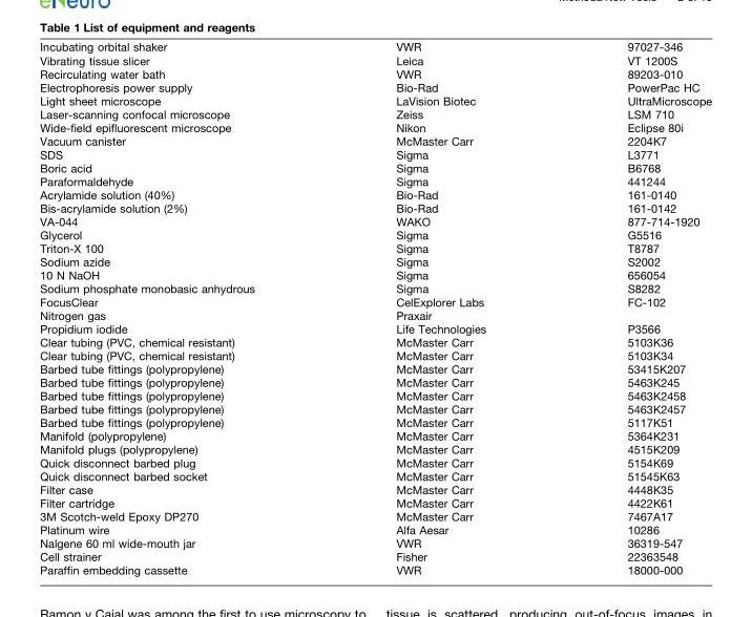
<table><tbody><tr><td>Incubating orbital shaker</td><td>VWR</td><td>97027-346</td></tr><tr><td>Vibrating tissue slicer</td><td>Leica</td><td>VT 1200S</td></tr><tr><td>Recirculating water bath</td><td>VWR</td><td>89203-010</td></tr><tr><td>Electrophoresis power supply</td><td>Bio-Rad</td><td>PowerPac HC</td></tr><tr><td>Light sheet microscope</td><td>LaVision Biotec</td><td>UltraMicroscope</td></tr><tr><td>Laser-scanning confocal microscope</td><td>Zeiss</td><td>LSM 710</td></tr><tr><td>Wide-field epifluorescent microscope</td><td>Nikon</td><td>Eclipse 80i</td></tr><tr><td>Vacuum canister</td><td>McMaster Carr</td><td>2204K7</td></tr><tr><td>SDS</td><td>Sigma</td><td>L3771</td></tr><tr><td>Boric acid</td><td>Sigma</td><td>B6768</td></tr><tr><td>Paraformaldehyde</td><td>Sigma</td><td>441244</td></tr><tr><td>Acrylamide solution (40%)</td><td>Bio-Rad</td><td>161-0140</td></tr><tr><td>Bis-acrylamide solution (2%)</td><td>Bio-Rad</td><td>161-0142</td></tr><tr><td>VA-044</td><td>WAKO</td><td>877-714-1920</td></tr><tr><td>Glycerol</td><td>Sigma</td><td>G5516</td></tr><tr><td>Triton-X 100</td><td>Sigma</td><td>T8787</td></tr><tr><td>Sodium azide</td><td>Sigma</td><td>S2002</td></tr><tr><td>10 N NaOH</td><td>Sigma</td><td>656054</td></tr><tr><td>Sodium phosphate monobasic anhydrous</td><td>Sigma</td><td>S8282</td></tr><tr><td>FocusClear</td><td>CelExplorer Labs</td><td>FC-102</td></tr><tr><td>Nitrogen gas</td><td>Praxair</td><td></td></tr><tr><td>Propidium iodide</td><td>Life Technologies</td><td>P3566</td></tr><tr><td>Clear tubing (PVC, chemical resistant)</td><td>McMaster Carr</td><td>5103K36</td></tr><tr><td>Clear tubing (PVC, chemical resistant)</td><td>McMaster Carr</td><td>5103K34</td></tr><tr><td>Barbed tube fittings (polypropylene)</td><td>McMaster Carr</td><td>53415K207</td></tr><tr><td>Barbed tube fittings (polypropylene)</td><td>McMaster Carr</td><td>5463K245</td></tr><tr><td>Barbed tube fittings (polypropylene)</td><td>McMaster Carr</td><td>5463K2458</td></tr><tr><td>Barbed tube fittings (polypropylene)</td><td>McMaster Carr</td><td>5463K2457</td></tr><tr><td>Barbed tube fittings (polypropylene)</td><td>McMaster Carr</td><td>5117K51</td></tr><tr><td>Manifold (polypropylene)</td><td>McMaster Carr</td><td>5364K231</td></tr><tr><td>Manifold plugs (polypropylene)</td><td>McMaster Carr</td><td>4515K209</td></tr><tr><td>Quick disconnect barbed plug</td><td>McMaster Carr</td><td>5154K69</td></tr><tr><td>Quick disconnect barbed socket</td><td>McMaster Carr</td><td>51545K63</td></tr><tr><td>Filter case</td><td>McMaster Carr</td><td>4448K35</td></tr><tr><td>Filter cartridge</td><td>McMaster Carr</td><td>4422K61</td></tr><tr><td>3M Scotch-weld Epoxy DP270</td><td>McMaster Carr</td><td>7467A17</td></tr><tr><td>Platinum wire</td><td>Alfa Aesar</td><td>10286</td></tr><tr><td>Nalgene 60 ml wide-mouth jar</td><td>VWR</td><td>36319-547</td></tr><tr><td>Cell strainer</td><td>Fisher</td><td>22363548</td></tr><tr><td>Paraffin embedding cassette</td><td>VWR</td><td>18000-000</td></tr></tbody></table>